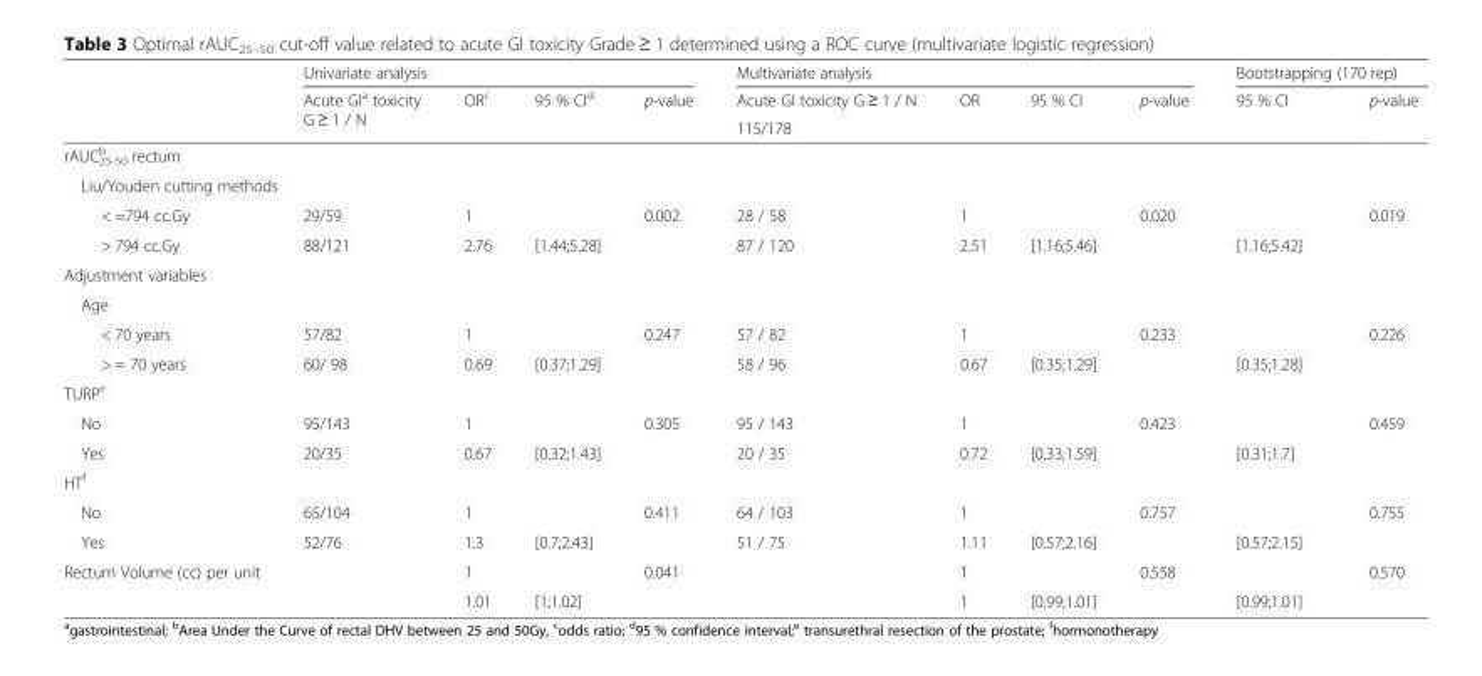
<table><thead><tr><td rowspan="3"></td><td colspan="4">Univariate analysis</td><td colspan="4">Multivariate analysis</td><td colspan="2">Bootstrapping (170 rep)</td></tr><tr><td rowspan="2">Acute GI<sup>a</sup> toxicity G ≥ 1 / N</td><td rowspan="2">OR<sup>c</sup></td><td rowspan="2">95 % CI<sup>d</sup></td><td rowspan="2">p-value</td><td rowspan="2">Acute GI toxicity G ≥ 1 / N 115/178</td><td rowspan="2">OR</td><td rowspan="2">95 % CI</td><td rowspan="2">p-value</td><td rowspan="2">95 % CI</td><td rowspan="2">p-value</td></tr><tr></tr></thead><tbody><tr><td colspan="11">rAUC<sub>25-50</sub> <sup>b</sup> rectum</td></tr><tr><td colspan="11">Liu/Youden cutting methods</td></tr><tr><td>&lt; =794 cc.Gy</td><td>29/59</td><td>1</td><td></td><td>0.002</td><td>28 / 58</td><td>1</td><td></td><td>0.020</td><td></td><td>0.019</td></tr><tr><td>&gt; 794 cc.Gy</td><td>88/121</td><td>2.76</td><td>[1.44;5.28]</td><td></td><td>87 / 120</td><td>2.51</td><td>[1.16;5.46]</td><td></td><td>[1.16;5.42]</td><td></td></tr><tr><td colspan="11">Adjustment variables</td></tr><tr><td colspan="11">Age</td></tr><tr><td>&lt; 70 years</td><td>57/82</td><td>1</td><td></td><td>0.247</td><td>57 / 82</td><td>1</td><td></td><td>0.233</td><td></td><td>0.226</td></tr><tr><td>&gt; = 70 years</td><td>60/ 98</td><td>0.69</td><td>[0.37;1.29]</td><td></td><td>58 / 96</td><td>0.67</td><td>[0.35;1.29]</td><td></td><td>[0.35;1.28]</td><td></td></tr><tr><td colspan="11">TURP<sup>e</sup></td></tr><tr><td>No</td><td>95/143</td><td>1</td><td></td><td>0.305</td><td>95 / 143</td><td>1</td><td></td><td>0.423</td><td></td><td>0.459</td></tr><tr><td>Yes</td><td>20/35</td><td>0.67</td><td>[0.32;1.43]</td><td></td><td>20 / 35</td><td>0.72</td><td>[0.33;1.59]</td><td></td><td>[0.31;1.7]</td><td></td></tr><tr><td colspan="11">HT<sup>f</sup></td></tr><tr><td>No</td><td>65/104</td><td>1</td><td></td><td>0.411</td><td>64 / 103</td><td>1</td><td></td><td>0.757</td><td></td><td>0.755</td></tr><tr><td>Yes</td><td>52/76</td><td>1.3</td><td>[0.7;2.43]</td><td></td><td>51 / 75</td><td>1.11</td><td>[0.57;2.16]</td><td></td><td>[0.57;2.15]</td><td></td></tr><tr><td rowspan="2">Rectum Volume (cc) per unit</td><td></td><td>1</td><td></td><td>0.041</td><td></td><td>1</td><td></td><td>0.558</td><td></td><td>0.570</td></tr><tr><td></td><td>1.01</td><td>[1;1.02]</td><td></td><td></td><td>1</td><td>[0.99;1.01]</td><td></td><td>[0.99;1.01]</td><td></td></tr></tbody></table>